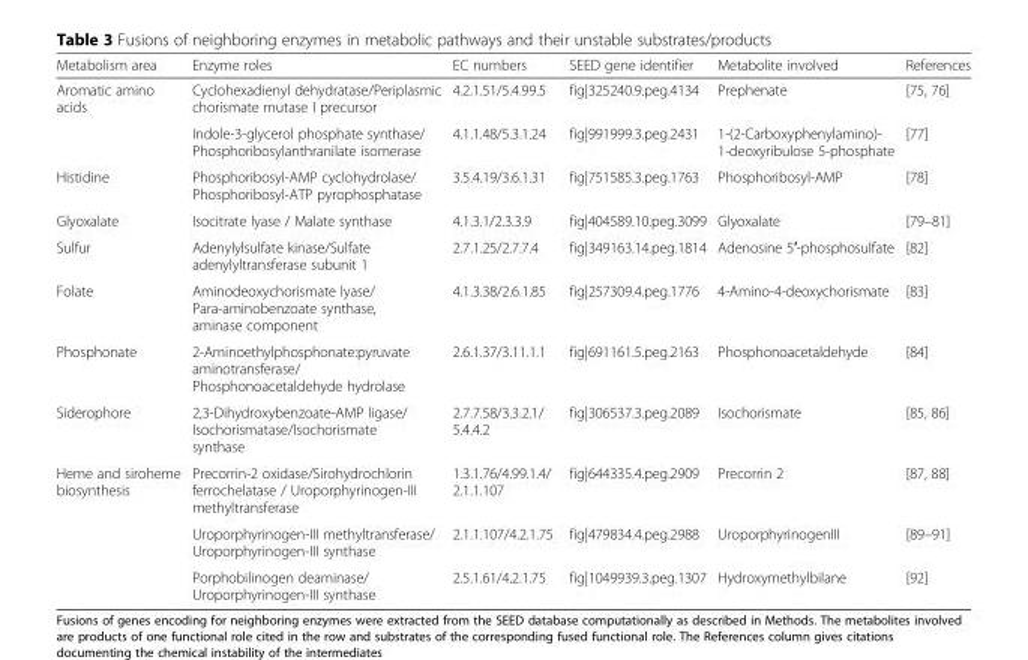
<table><thead><tr><td>Metabolism area</td><td>Enzyme roles</td><td>EC numbers</td><td>SEED gene identifier</td><td>Metabolite involved</td><td>References</td></tr></thead><tbody><tr><td rowspan="2">Aromatic amino acids</td><td>Cyclohexadienyl dehydratase/Periplasmic chorismate mutase I precursor</td><td>4.2.1.51/5.4.99.5</td><td>fig|325240.9.peg.4134</td><td>Prephenate</td><td>[75, 76]</td></tr><tr><td>Indole-3-glycerol phosphate synthase/ Phosphoribosylanthranilate isomerase</td><td>4.1.1.48/5.3.1.24</td><td>fig|991999.3.peg.2431</td><td>1-(2-Carboxyphenylamino)- 1-deoxyribulose 5-phosphate</td><td>[77]</td></tr><tr><td>Histidine</td><td>Phosphoribosyl-AMP cyclohydrolase/ Phosphoribosyl-ATP pyrophosphatase</td><td>3.5.4.19/3.6.1.31</td><td>fig|751585.3.peg.1763</td><td>Phosphoribosyl-AMP</td><td>[78]</td></tr><tr><td>Glyoxalate</td><td>Isocitrate lyase / Malate synthase</td><td>4.1.3.1/2.3.3.9</td><td>fig|404589.10.peg.3099</td><td>Glyoxalate</td><td>[79–81]</td></tr><tr><td>Sulfur</td><td>Adenylylsulfate kinase/Sulfate adenylyltransferase subunit 1</td><td>2.7.1.25/2.7.7.4</td><td>fig|349163.14.peg.1814</td><td>Adenosine 5′-phosphosulfate</td><td>[82]</td></tr><tr><td>Folate</td><td>Aminodeoxychorismate lyase/ Para-aminobenzoate synthase, aminase component</td><td>4.1.3.38/2.6.1.85</td><td>fig|257309.4.peg.1776</td><td>4-Amino-4-deoxychorismate</td><td>[83]</td></tr><tr><td>Phosphonate</td><td>2-Aminoethylphosphonate:pyruvate aminotransferase/ Phosphonoacetaldehyde hydrolase</td><td>2.6.1.37/3.11.1.1</td><td>fig|691161.5.peg.2163</td><td>Phosphonoacetaldehyde</td><td>[84]</td></tr><tr><td>Siderophore</td><td>2,3-Dihydroxybenzoate-AMP ligase/ Isochorismatase/Isochorismate synthase</td><td>2.7.7.58/3.3.2.1/ 5.4.4.2</td><td>fig|306537.3.peg.2089</td><td>Isochorismate</td><td>[85, 86]</td></tr><tr><td rowspan="3">Heme and siroheme biosynthesis</td><td>Precorrin-2 oxidase/Sirohydrochlorin ferrochelatase / Uroporphyrinogen-III methyltransferase</td><td>1.3.1.76/4.99.1.4/ 2.1.1.107</td><td>fig|644335.4.peg.2909</td><td>Precorrin 2</td><td>[87, 88]</td></tr><tr><td>Uroporphyrinogen-III methyltransferase/ Uroporphyrinogen-III synthase</td><td>2.1.1.107/4.2.1.75</td><td>fig|479834.4.peg.2988</td><td>UroporphyrinogenIII</td><td>[89–91]</td></tr><tr><td>Porphobilinogen deaminase/ Uroporphyrinogen-III synthase</td><td>2.5.1.61/4.2.1.75</td><td>fig|1049939.3.peg.1307</td><td>Hydroxymethylbilane</td><td>[92]</td></tr></tbody></table>